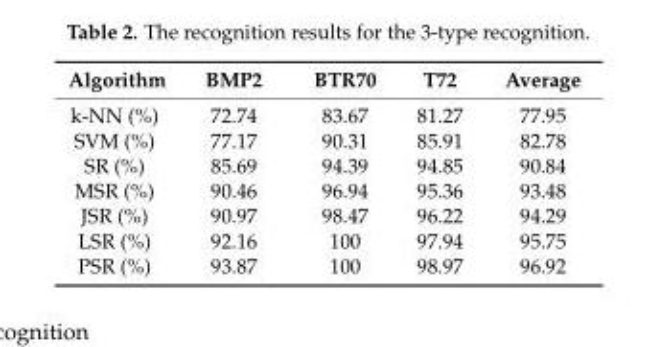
<table><thead><tr><td>Algorithm</td><td>BMP2</td><td>BTR70</td><td>T72</td><td>Average</td></tr></thead><tbody><tr><td>k-NN (%)</td><td>72.74</td><td>83.67</td><td>81.27</td><td>77.95</td></tr><tr><td>SVM (%)</td><td>77.17</td><td>90.31</td><td>85.91</td><td>82.78</td></tr><tr><td>SR (%)</td><td>85.69</td><td>94.39</td><td>94.85</td><td>90.84</td></tr><tr><td>MSR (%)</td><td>90.46</td><td>96.94</td><td>95.36</td><td>93.48</td></tr><tr><td>JSR (%)</td><td>90.97</td><td>98.47</td><td>96.22</td><td>94.29</td></tr><tr><td>LSR (%)</td><td>92.16</td><td>100</td><td>97.94</td><td>95.75</td></tr><tr><td>PSR (%)</td><td>93.87</td><td>100</td><td>98.97</td><td>96.92</td></tr></tbody></table>